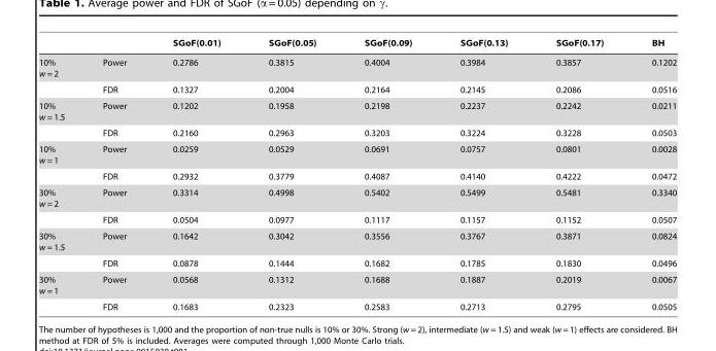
<table><thead><tr><td></td><td></td><td>SGoF(0.01)</td><td>SGoF(0.05)</td><td>SGoF(0.09)</td><td>SGoF(0.13)</td><td>SGoF(0.17)</td><td>BH</td></tr></thead><tbody><tr><td rowspan="2">10% w = 2</td><td>Power</td><td>0.2786</td><td>0.3815</td><td>0.4004</td><td>0.3984</td><td>0.3857</td><td>0.1202</td></tr><tr><td>FDR</td><td>0.1327</td><td>0.2004</td><td>0.2164</td><td>0.2145</td><td>0.2086</td><td>0.0516</td></tr><tr><td rowspan="2">10% w = 1.5</td><td>Power</td><td>0.1202</td><td>0.1958</td><td>0.2198</td><td>0.2237</td><td>0.2242</td><td>0.0211</td></tr><tr><td>FDR</td><td>0.2160</td><td>0.2963</td><td>0.3203</td><td>0.3224</td><td>0.3228</td><td>0.0503</td></tr><tr><td rowspan="2">10% w = 1</td><td>Power</td><td>0.0259</td><td>0.0529</td><td>0.0691</td><td>0.0757</td><td>0.0801</td><td>0.0028</td></tr><tr><td>FDR</td><td>0.2932</td><td>0.3779</td><td>0.4087</td><td>0.4140</td><td>0.4222</td><td>0.0472</td></tr><tr><td rowspan="2">30% w = 2</td><td>Power</td><td>0.3314</td><td>0.4998</td><td>0.5402</td><td>0.5499</td><td>0.5481</td><td>0.3340</td></tr><tr><td>FDR</td><td>0.0504</td><td>0.0977</td><td>0.1117</td><td>0.1157</td><td>0.1152</td><td>0.0507</td></tr><tr><td rowspan="2">30% w = 1.5</td><td>Power</td><td>0.1642</td><td>0.3042</td><td>0.3556</td><td>0.3767</td><td>0.3871</td><td>0.0824</td></tr><tr><td>FDR</td><td>0.0878</td><td>0.1444</td><td>0.1682</td><td>0.1785</td><td>0.1830</td><td>0.0496</td></tr><tr><td rowspan="2">30% w = 1</td><td>Power</td><td>0.0568</td><td>0.1312</td><td>0.1688</td><td>0.1887</td><td>0.2019</td><td>0.0067</td></tr><tr><td>FDR</td><td>0.1683</td><td>0.2323</td><td>0.2583</td><td>0.2713</td><td>0.2795</td><td>0.0505</td></tr></tbody></table>